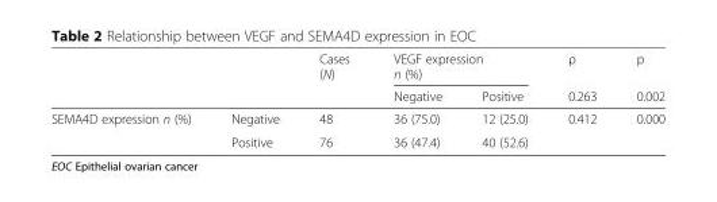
<table><thead><tr><td rowspan="2"></td><td rowspan="2"></td><td rowspan="2">Cases (N)</td><td colspan="2">VEGF expression n (%)</td><td rowspan="2">ρ 0.263</td><td rowspan="2">p 0.002</td></tr><tr><td>Negative</td><td>Positive</td></tr></thead><tbody><tr><td rowspan="2">SEMA4D expression n (%)</td><td>Negative</td><td>48</td><td>36 (75.0)</td><td>12 (25.0)</td><td rowspan="2">0.412</td><td rowspan="2">0.000</td></tr><tr><td>Positive</td><td>76</td><td>36 (47.4)</td><td>40 (52.6)</td></tr></tbody></table>